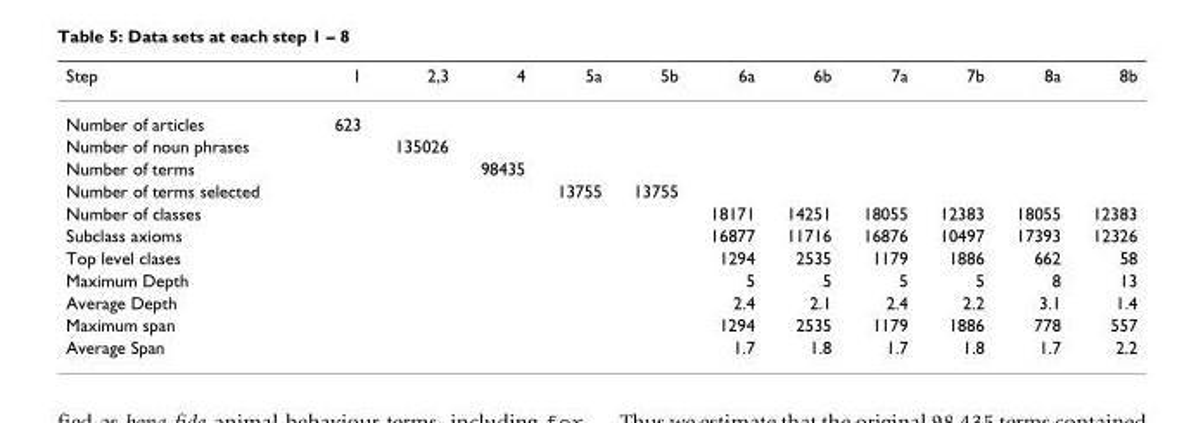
<table><thead><tr><td>Step</td><td>1</td><td>2,3</td><td>4</td><td>5a</td><td>5b</td><td>6a</td><td>6b</td><td>7a</td><td>7b</td><td>8a</td><td>8b</td></tr></thead><tbody><tr><td>Number of articles</td><td>623</td><td></td><td></td><td></td><td></td><td></td><td></td><td></td><td></td><td></td><td></td></tr><tr><td>Number of noun phrases</td><td></td><td>135026</td><td></td><td></td><td></td><td></td><td></td><td></td><td></td><td></td><td></td></tr><tr><td>Number of terms</td><td></td><td></td><td>98435</td><td></td><td></td><td></td><td></td><td></td><td></td><td></td><td></td></tr><tr><td>Number of terms selected</td><td></td><td></td><td></td><td>13755</td><td>13755</td><td></td><td></td><td></td><td></td><td></td><td></td></tr><tr><td>Number of classes</td><td></td><td></td><td></td><td></td><td></td><td>18171</td><td>14251</td><td>18055</td><td>12383</td><td>18055</td><td>12383</td></tr><tr><td>Subclass axioms</td><td></td><td></td><td></td><td></td><td></td><td>16877</td><td>11716</td><td>16876</td><td>10497</td><td>17393</td><td>12326</td></tr><tr><td>Top level clases</td><td></td><td></td><td></td><td></td><td></td><td>1294</td><td>2535</td><td>1179</td><td>1886</td><td>662</td><td>58</td></tr><tr><td>Maximum Depth</td><td></td><td></td><td></td><td></td><td></td><td>5</td><td>5</td><td>5</td><td>5</td><td>8</td><td>13</td></tr><tr><td>Average Depth</td><td></td><td></td><td></td><td></td><td></td><td>2.4</td><td>2.1</td><td>2.4</td><td>2.2</td><td>3.1</td><td>1.4</td></tr><tr><td>Maximum span</td><td></td><td></td><td></td><td></td><td></td><td>1294</td><td>2535</td><td>1179</td><td>1886</td><td>778</td><td>557</td></tr><tr><td>Average Span</td><td></td><td></td><td></td><td></td><td></td><td>1.7</td><td>1.8</td><td>1.7</td><td>1.8</td><td>1.7</td><td>2.2</td></tr></tbody></table>